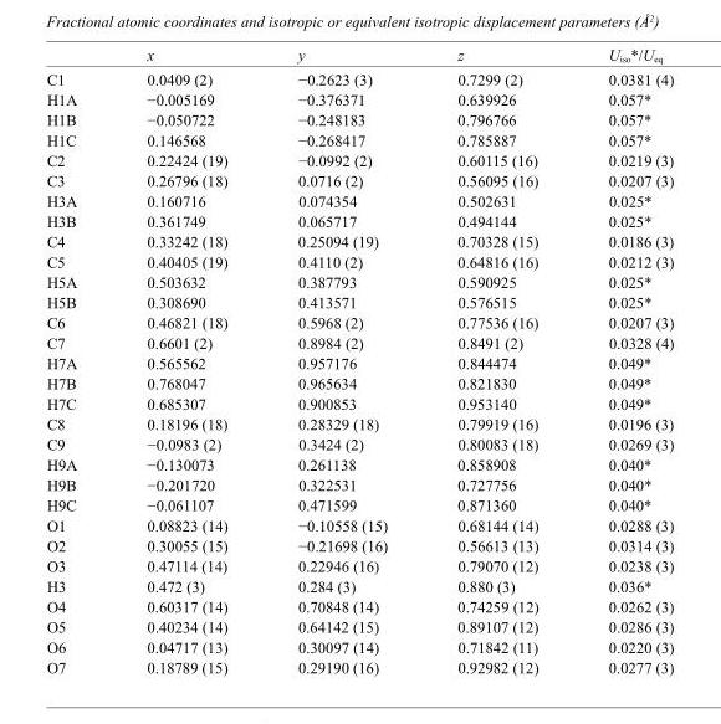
<table><thead><tr><td></td><td>x</td><td>y</td><td>z</td><td>U<sub>iso</sub>*/U<sub>eq</sub></td></tr></thead><tbody><tr><td>C1</td><td>0.0409 (2)</td><td>−0.2623 (3)</td><td>0.7299 (2)</td><td>0.0381 (4)</td></tr><tr><td>H1A</td><td>−0.005169</td><td>−0.376371</td><td>0.639926</td><td>0.057*</td></tr><tr><td>H1B</td><td>−0.050722</td><td>−0.248183</td><td>0.796766</td><td>0.057*</td></tr><tr><td>H1C</td><td>0.146568</td><td>−0.268417</td><td>0.785887</td><td>0.057*</td></tr><tr><td>C2</td><td>0.22424 (19)</td><td>−0.0992 (2)</td><td>0.60115 (16)</td><td>0.0219 (3)</td></tr><tr><td>C3</td><td>0.26796 (18)</td><td>0.0716 (2)</td><td>0.56095 (16)</td><td>0.0207 (3)</td></tr><tr><td>H3A</td><td>0.160716</td><td>0.074354</td><td>0.502631</td><td>0.025*</td></tr><tr><td>H3B</td><td>0.361749</td><td>0.065717</td><td>0.494144</td><td>0.025*</td></tr><tr><td>C4</td><td>0.33242 (18)</td><td>0.25094 (19)</td><td>0.70328 (15)</td><td>0.0186 (3)</td></tr><tr><td>C5</td><td>0.40405 (19)</td><td>0.4110 (2)</td><td>0.64816 (16)</td><td>0.0212 (3)</td></tr><tr><td>H5A</td><td>0.503632</td><td>0.387793</td><td>0.590925</td><td>0.025*</td></tr><tr><td>H5B</td><td>0.308690</td><td>0.413571</td><td>0.576515</td><td>0.025*</td></tr><tr><td>C6</td><td>0.46821 (18)</td><td>0.5968 (2)</td><td>0.77536 (16)</td><td>0.0207 (3)</td></tr><tr><td>C7</td><td>0.6601 (2)</td><td>0.8984 (2)</td><td>0.8491 (2)</td><td>0.0328 (4)</td></tr><tr><td>H7A</td><td>0.565562</td><td>0.957176</td><td>0.844474</td><td>0.049*</td></tr><tr><td>H7B</td><td>0.768047</td><td>0.965634</td><td>0.821830</td><td>0.049*</td></tr><tr><td>H7C</td><td>0.685307</td><td>0.900853</td><td>0.953140</td><td>0.049*</td></tr><tr><td>C8</td><td>0.18196 (18)</td><td>0.28329 (18)</td><td>0.79919 (16)</td><td>0.0196 (3)</td></tr><tr><td>C9</td><td>−0.0983 (2)</td><td>0.3424 (2)</td><td>0.80083 (18)</td><td>0.0269 (3)</td></tr><tr><td>H9A</td><td>−0.130073</td><td>0.261138</td><td>0.858908</td><td>0.040*</td></tr><tr><td>H9B</td><td>−0.201720</td><td>0.322531</td><td>0.727756</td><td>0.040*</td></tr><tr><td>H9C</td><td>−0.061107</td><td>0.471599</td><td>0.871360</td><td>0.040*</td></tr><tr><td>O1</td><td>0.08823 (14)</td><td>−0.10558 (15)</td><td>0.68144 (14)</td><td>0.0288 (3)</td></tr><tr><td>O2</td><td>0.30055 (15)</td><td>−0.21698 (16)</td><td>0.56613 (13)</td><td>0.0314 (3)</td></tr><tr><td>O3</td><td>0.47114 (14)</td><td>0.22946 (16)</td><td>0.79070 (12)</td><td>0.0238 (3)</td></tr><tr><td>H3</td><td>0.472 (3)</td><td>0.284 (3)</td><td>0.880 (3)</td><td>0.036*</td></tr><tr><td>O4</td><td>0.60317 (14)</td><td>0.70848 (14)</td><td>0.74259 (12)</td><td>0.0262 (3)</td></tr><tr><td>O5</td><td>0.40234 (14)</td><td>0.64142 (15)</td><td>0.89107 (12)</td><td>0.0286 (3)</td></tr><tr><td>O6</td><td>0.04717 (13)</td><td>0.30097 (14)</td><td>0.71842 (11)</td><td>0.0220 (3)</td></tr><tr><td>O7</td><td>0.18789 (15)</td><td>0.29190 (16)</td><td>0.92982 (12)</td><td>0.0277 (3)</td></tr></tbody></table>